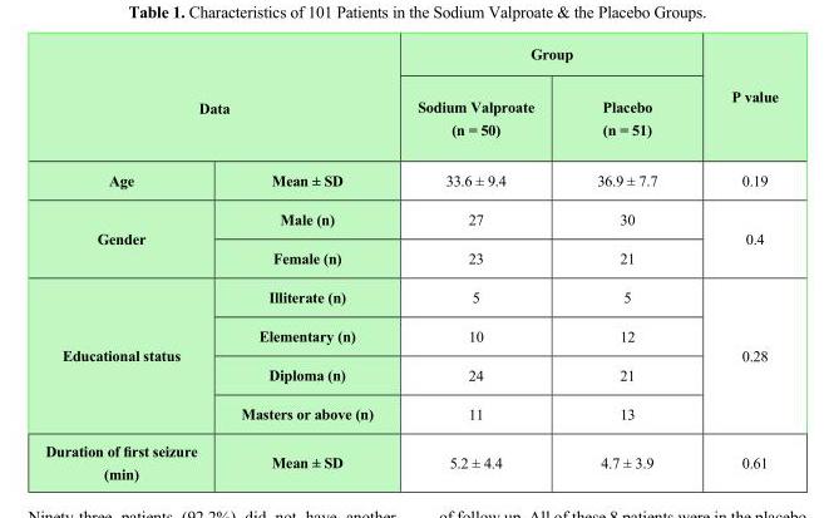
<table><thead><tr><td rowspan="2" colspan="2">Data</td><td colspan="2">Group</td><td rowspan="3">P value 0.19</td></tr><tr><td rowspan="2">Sodium Valproate (n = 50) 33.6 ± 9.4</td><td rowspan="2">Placebo (n = 51) 36.9 ± 7.7</td></tr><tr><td>Age</td><td>Mean ± SD</td></tr></thead><tbody><tr><td rowspan="2">Gender</td><td>Male (n)</td><td>27</td><td>30</td><td rowspan="2">0.4</td></tr><tr><td>Female (n)</td><td>23</td><td>21</td></tr><tr><td rowspan="4">Educational status</td><td>Illiterate (n)</td><td>5</td><td>5</td><td rowspan="4">0.28</td></tr><tr><td>Elementary (n)</td><td>10</td><td>12</td></tr><tr><td>Diploma (n)</td><td>24</td><td>21</td></tr><tr><td>Masters or above (n)</td><td>11</td><td>13</td></tr><tr><td>Duration of first seizure</td><td>Mean ± SD</td><td>5.2 ± 4.4</td><td>4.7 ± 3.9</td><td>0.61</td></tr></tbody></table>